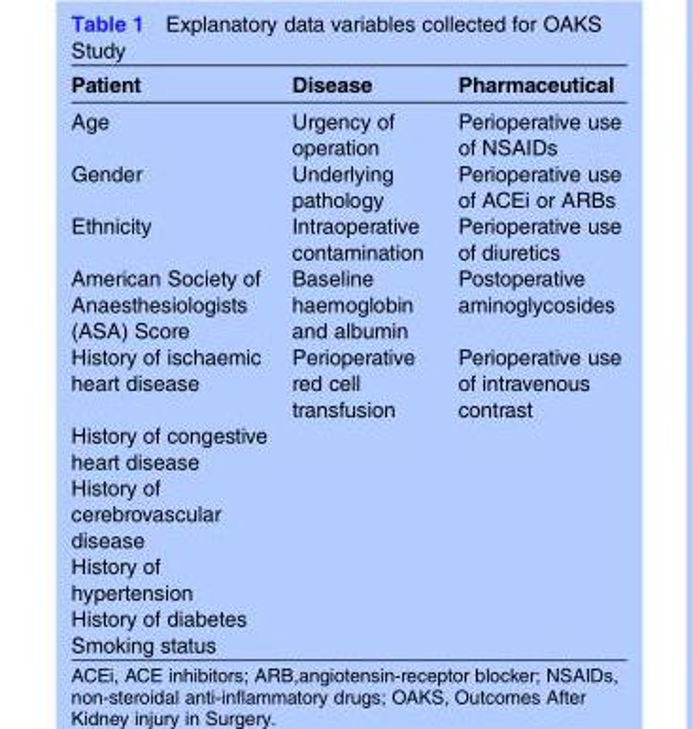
<table><thead><tr><td>Patient</td><td>Disease</td><td>Pharmaceutical</td></tr></thead><tbody><tr><td>Age</td><td>Urgency of operation</td><td>Perioperative use of NSAIDs</td></tr><tr><td>Gender</td><td>Underlying pathology</td><td>Perioperative use of ACEi or ARBs</td></tr><tr><td>Ethnicity</td><td>Intraoperative contamination</td><td>Perioperative use of diuretics</td></tr><tr><td>American Society of Anaesthesiologists (ASA) Score</td><td>Baseline haemoglobin and albumin</td><td>Postoperative aminoglycosides</td></tr><tr><td>History of ischaemic heart disease</td><td>Perioperative red cell transfusion</td><td>Perioperative use of intravenous contrast</td></tr><tr><td colspan="3">History of congestive heart disease</td></tr><tr><td colspan="3">History of cerebrovascular disease</td></tr><tr><td colspan="3">History of hypertension</td></tr><tr><td colspan="3">History of diabetes</td></tr><tr><td>Smoking status</td><td></td><td></td></tr></tbody></table>